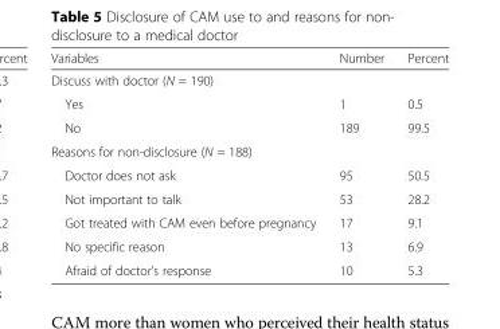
<table><thead><tr><td>Variables</td><td>Number</td><td>Percent</td></tr></thead><tbody><tr><td colspan="3">Discuss with doctor (N = 190)</td></tr><tr><td>Yes</td><td>1</td><td>0.5</td></tr><tr><td>No</td><td>189</td><td>99.5</td></tr><tr><td colspan="3">Reasons for non-disclosure (N = 188)</td></tr><tr><td>Doctor does not ask</td><td>95</td><td>50.5</td></tr><tr><td>Not important to talk</td><td>53</td><td>28.2</td></tr><tr><td>Got treated with CAM even before pregnancy</td><td>17</td><td>9.1</td></tr><tr><td>No specific reason</td><td>13</td><td>6.9</td></tr><tr><td>Afraid of doctor’s response</td><td>10</td><td>5.3</td></tr></tbody></table>